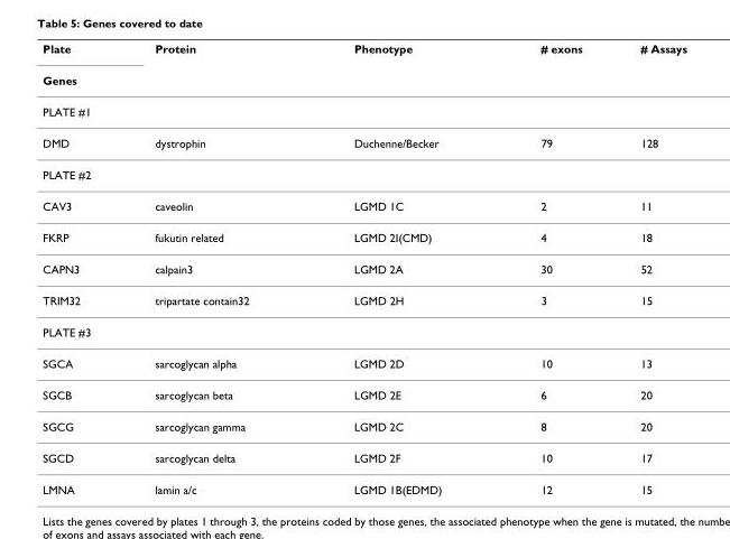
<table><thead><tr><td rowspan="2">Plate Genes</td><td rowspan="2">Protein</td><td rowspan="2">Phenotype</td><td rowspan="2"># exons</td><td rowspan="2"># Assays</td></tr><tr></tr></thead><tbody><tr><td colspan="5">PLATE #1</td></tr><tr><td>DMD</td><td>dystrophin</td><td>Duchenne/Becker</td><td>79</td><td>128</td></tr><tr><td colspan="5">PLATE #2</td></tr><tr><td>CAV3</td><td>caveolin</td><td>LGMD 1C</td><td>2</td><td>11</td></tr><tr><td>FKRP</td><td>fukutin related</td><td>LGMD 2I(CMD)</td><td>4</td><td>18</td></tr><tr><td>CAPN3</td><td>calpain3</td><td>LGMD 2A</td><td>30</td><td>52</td></tr><tr><td>TRIM32</td><td>tripartate contain32</td><td>LGMD 2H</td><td>3</td><td>15</td></tr><tr><td colspan="5">PLATE #3</td></tr><tr><td>SGCA</td><td>sarcoglycan alpha</td><td>LGMD 2D</td><td>10</td><td>13</td></tr><tr><td>SGCB</td><td>sarcoglycan beta</td><td>LGMD 2E</td><td>6</td><td>20</td></tr><tr><td>SGCG</td><td>sarcoglycan gamma</td><td>LGMD 2C</td><td>8</td><td>20</td></tr><tr><td>SGCD</td><td>sarcoglycan delta</td><td>LGMD 2F</td><td>10</td><td>17</td></tr><tr><td>LMNA</td><td>lamin a/c</td><td>LGMD 1B(EDMD)</td><td>12</td><td>15</td></tr></tbody></table>